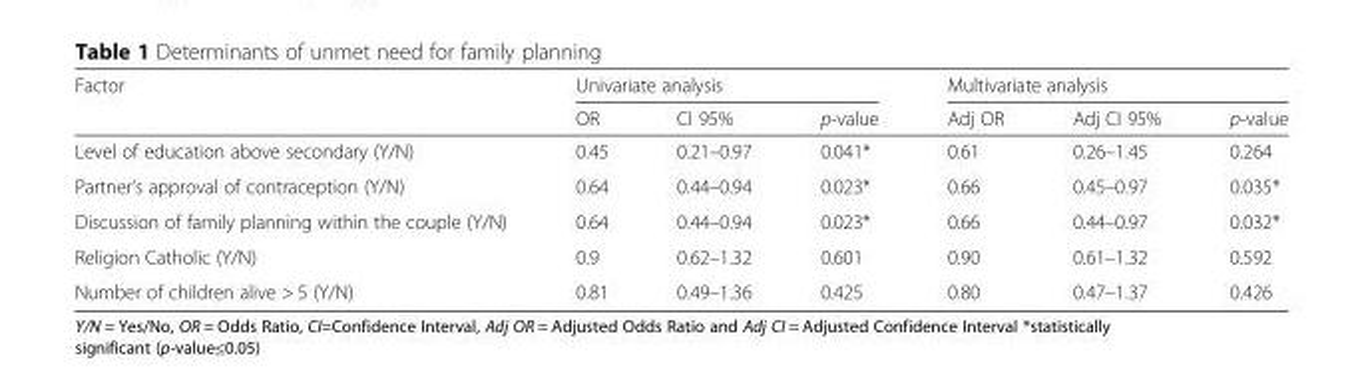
<table><thead><tr><td rowspan="2">Factor</td><td colspan="3">Univariate analysis</td><td colspan="3">Multivariate analysis</td></tr><tr><td>OR</td><td>CI 95%</td><td>p-value</td><td>Adj OR</td><td>Adj CI 95%</td><td>p-value</td></tr></thead><tbody><tr><td>Level of education above secondary (Y/N)</td><td>0.45</td><td>0.21–0.97</td><td>0.041*</td><td>0.61</td><td>0.26–1.45</td><td>0.264</td></tr><tr><td>Partner’s approval of contraception (Y/N)</td><td>0.64</td><td>0.44–0.94</td><td>0.023*</td><td>0.66</td><td>0.45–0.97</td><td>0.035*</td></tr><tr><td>Discussion of family planning within the couple (Y/N)</td><td>0.64</td><td>0.44–0.94</td><td>0.023*</td><td>0.66</td><td>0.44–0.97</td><td>0.032*</td></tr><tr><td>Religion Catholic (Y/N)</td><td>0.9</td><td>0.62–1.32</td><td>0.601</td><td>0.90</td><td>0.61–1.32</td><td>0.592</td></tr><tr><td>Number of children alive &gt; 5 (Y/N)</td><td>0.81</td><td>0.49–1.36</td><td>0.425</td><td>0.80</td><td>0.47–1.37</td><td>0.426</td></tr></tbody></table>